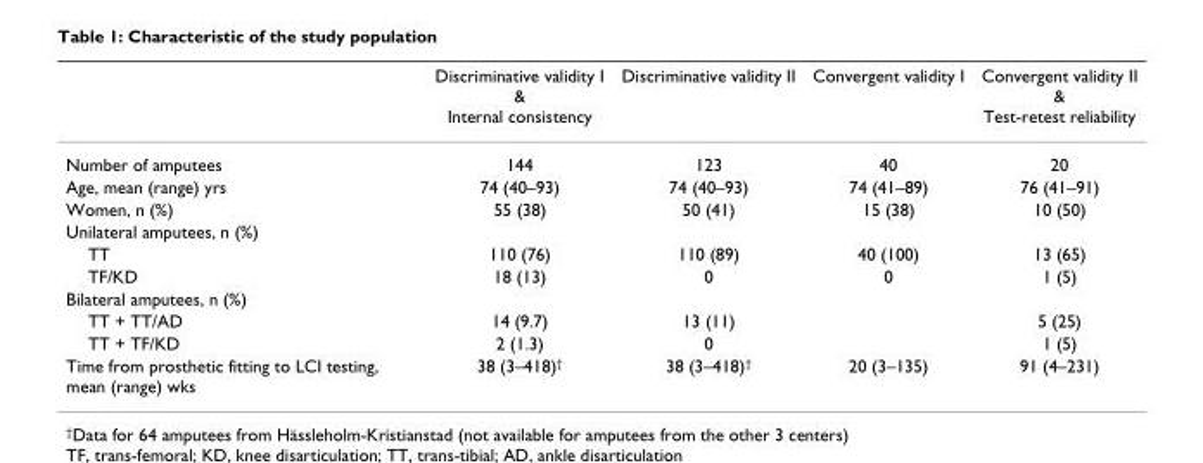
<table><thead><tr><td></td><td>Discriminative validity I &amp; Internal consistency</td><td>Discriminative validity II</td><td>Convergent validity I</td><td>Convergent validity II &amp; Test-retest reliability</td></tr></thead><tbody><tr><td>Number of amputees</td><td>144</td><td>123</td><td>40</td><td>20</td></tr><tr><td>Age, mean (range) yrs</td><td>74 (40–93)</td><td>74 (40–93)</td><td>74 (41–89)</td><td>76 (41–91)</td></tr><tr><td>Women, n (%)</td><td>55 (38)</td><td>50 (41)</td><td>15 (38)</td><td>10 (50)</td></tr><tr><td colspan="5">Unilateral amputees, n (%)</td></tr><tr><td>TT</td><td>110 (76)</td><td>110 (89)</td><td>40 (100)</td><td>13 (65)</td></tr><tr><td>TF/KD</td><td>18 (13)</td><td>0</td><td>0</td><td>1 (5)</td></tr><tr><td colspan="5">Bilateral amputees, n (%)</td></tr><tr><td>TT + TT/AD</td><td>14 (9.7)</td><td>13 (11)</td><td></td><td>5 (25)</td></tr><tr><td>TT + TF/KD</td><td>2 (1.3)</td><td>0</td><td></td><td>1 (5)</td></tr><tr><td>Time from prosthetic fitting to LCI testing, mean (range) wks</td><td>38 (3–418)<sup>†</sup></td><td>38 (3–418)<sup>†</sup></td><td>20 (3–135)</td><td>91 (4–231)</td></tr></tbody></table>